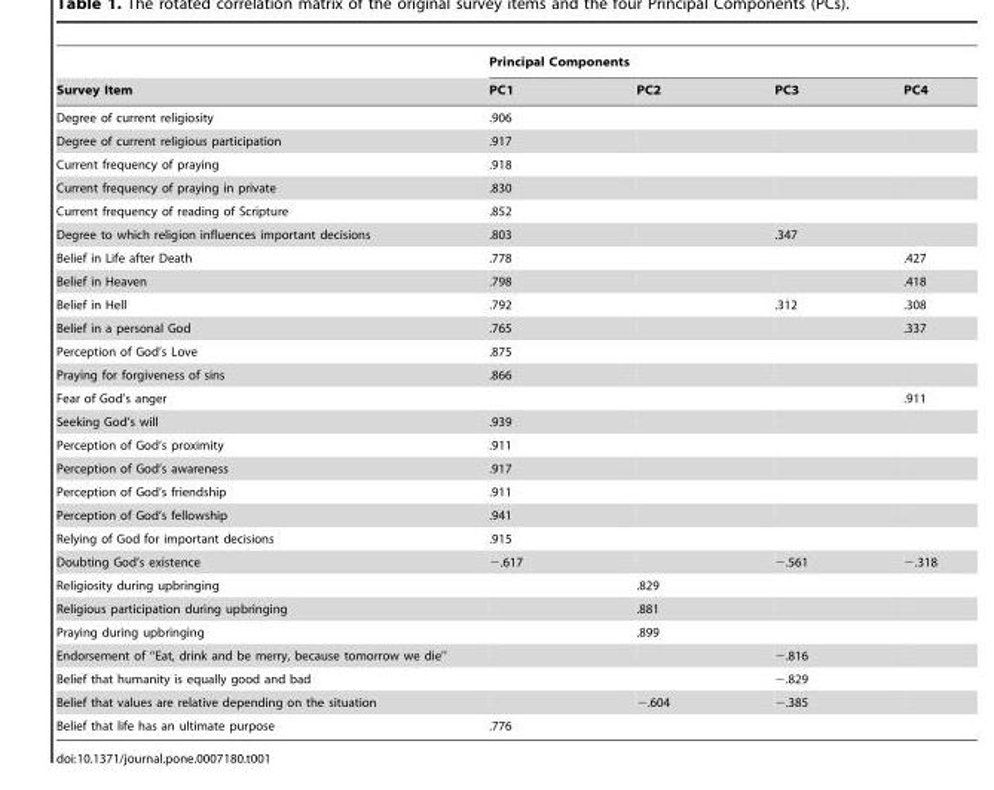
<table><thead><tr><td rowspan="2">Survey Item</td><td colspan="4">Principal Components</td></tr><tr><td>PC1</td><td>PC2</td><td>PC3</td><td>PC4</td></tr></thead><tbody><tr><td>Degree of current religiosity</td><td>.906</td><td></td><td></td><td></td></tr><tr><td>Degree of current religious participation</td><td>.917</td><td></td><td></td><td></td></tr><tr><td>Current frequency of praying</td><td>.918</td><td></td><td></td><td></td></tr><tr><td>Current frequency of praying in private</td><td>.830</td><td></td><td></td><td></td></tr><tr><td>Current frequency of reading of Scripture</td><td>.852</td><td></td><td></td><td></td></tr><tr><td>Degree to which religion influences important decisions</td><td>.803</td><td></td><td>.347</td><td></td></tr><tr><td>Belief in Life after Death</td><td>.778</td><td></td><td></td><td>.427</td></tr><tr><td>Belief in Heaven</td><td>.798</td><td></td><td></td><td>.418</td></tr><tr><td>Belief in Hell</td><td>.792</td><td></td><td>.312</td><td>.308</td></tr><tr><td>Belief in a personal God</td><td>.765</td><td></td><td></td><td>.337</td></tr><tr><td>Perception of God’s Love</td><td>.875</td><td></td><td></td><td></td></tr><tr><td>Praying for forgiveness of sins</td><td>.866</td><td></td><td></td><td></td></tr><tr><td>Fear of God’s anger</td><td></td><td></td><td></td><td>.911</td></tr><tr><td>Seeking God’s will</td><td>.939</td><td></td><td></td><td></td></tr><tr><td>Perception of God’s proximity</td><td>.911</td><td></td><td></td><td></td></tr><tr><td>Perception of God’s awareness</td><td>.917</td><td></td><td></td><td></td></tr><tr><td>Perception of God’s friendship</td><td>.911</td><td></td><td></td><td></td></tr><tr><td>Perception of God’s fellowship</td><td>.941</td><td></td><td></td><td></td></tr><tr><td>Relying of God for important decisions</td><td>.915</td><td></td><td></td><td></td></tr><tr><td>Doubting God’s existence</td><td>−.617</td><td></td><td>−.561</td><td>−.318</td></tr><tr><td>Religiosity during upbringing</td><td></td><td>.829</td><td></td><td></td></tr><tr><td>Religious participation during upbringing</td><td></td><td>.881</td><td></td><td></td></tr><tr><td>Praying during upbringing</td><td></td><td>.899</td><td></td><td></td></tr><tr><td>Endorsement of ‘‘Eat, drink and be merry, because tomorrow we die’’</td><td></td><td></td><td>−.816</td><td></td></tr><tr><td>Belief that humanity is equally good and bad</td><td></td><td></td><td>−.829</td><td></td></tr><tr><td>Belief that values are relative depending on the situation</td><td></td><td>−.604</td><td>−.385</td><td></td></tr><tr><td>Belief that life has an ultimate purpose</td><td>.776</td><td></td><td></td><td></td></tr></tbody></table>